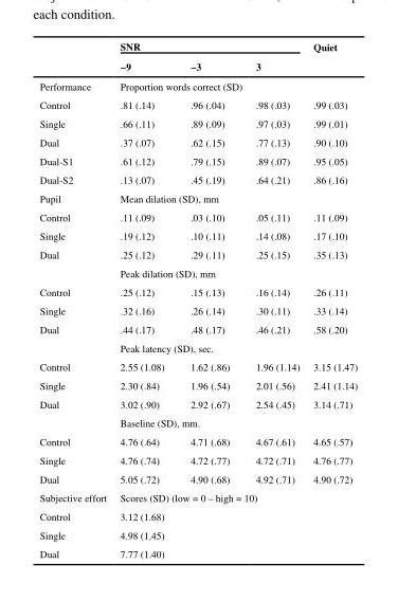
<table><thead><tr><td rowspan="2"></td><td colspan="3">SNR</td><td rowspan="2">Quiet</td></tr><tr><td>−9</td><td>−3</td><td>3</td></tr></thead><tbody><tr><td>Performance</td><td colspan="2">Proportion words correct (SD)</td><td></td><td></td></tr><tr><td>Control</td><td>.81 (.14)</td><td>.96 (.04)</td><td>.98 (.03)</td><td>.99 (.03)</td></tr><tr><td>Single</td><td>.66 (.11)</td><td>.89 (.09)</td><td>.97 (.03)</td><td>.99 (.01)</td></tr><tr><td>Dual</td><td>.37 (.07)</td><td>.62 (.15)</td><td>.77 (.13)</td><td>.90 (.10)</td></tr><tr><td>Dual-S1</td><td>.61 (.12)</td><td>.79 (.15)</td><td>.89 (.07)</td><td>.95 (.05)</td></tr><tr><td>Dual-S2</td><td>.13 (.07)</td><td>.45 (.19)</td><td>.64 (.21)</td><td>.86 (.16)</td></tr><tr><td>Pupil</td><td colspan="2">Mean dilation (SD), mm</td><td></td><td></td></tr><tr><td>Control</td><td>.11 (.09)</td><td>.03 (.10)</td><td>.05 (.11)</td><td>.11 (.09)</td></tr><tr><td>Single</td><td>.19 (.12)</td><td>.10 (.11)</td><td>.14 (.08)</td><td>.17 (.10)</td></tr><tr><td rowspan="2">Dual</td><td>.25 (.12)</td><td>.29 (.11)</td><td>.25 (.15)</td><td>.35 (.13)</td></tr><tr><td colspan="2">Peak dilation (SD), mm</td><td></td><td></td></tr><tr><td>Control</td><td>.25 (.12)</td><td>.15 (.13)</td><td>.16 (.14)</td><td>.26 (.11)</td></tr><tr><td>Single</td><td>.32 (.16)</td><td>.26 (.14)</td><td>.30 (.11)</td><td>.33 (.14)</td></tr><tr><td rowspan="2">Dual</td><td>.44 (.17)</td><td>.48 (.17)</td><td>.46 (.21)</td><td>.58 (.20)</td></tr><tr><td colspan="2">Peak latency (SD), sec.</td><td></td><td></td></tr><tr><td>Control</td><td>2.55 (1.08)</td><td>1.62 (.86)</td><td>1.96 (1.14)</td><td>3.15 (1.47)</td></tr><tr><td>Single</td><td>2.30 (.84)</td><td>1.96 (.54)</td><td>2.01 (.56)</td><td>2.41 (1.14)</td></tr><tr><td rowspan="2">Dual</td><td>3.02 (.90)</td><td>2.92 (.67)</td><td>2.54 (.45)</td><td>3.14 (.71)</td></tr><tr><td colspan="2">Baseline (SD), mm.</td><td></td><td></td></tr><tr><td>Control</td><td>4.76 (.64)</td><td>4.71 (.68)</td><td>4.67 (.61)</td><td>4.65 (.57)</td></tr><tr><td>Single</td><td>4.76 (.74)</td><td>4.72 (.77)</td><td>4.72 (.71)</td><td>4.76 (.77)</td></tr><tr><td>Dual</td><td>5.05 (.72)</td><td>4.90 (.68)</td><td>4.92 (.71)</td><td>4.90 (.72)</td></tr><tr><td>Subjective effort</td><td colspan="3">Scores (SD) (low = 0 – high = 10)</td><td></td></tr><tr><td>Control</td><td>3.12 (1.68)</td><td></td><td></td><td></td></tr><tr><td>Single</td><td>4.98 (1.45)</td><td></td><td></td><td></td></tr><tr><td>Dual</td><td>7.77 (1.40)</td><td></td><td></td><td></td></tr></tbody></table>